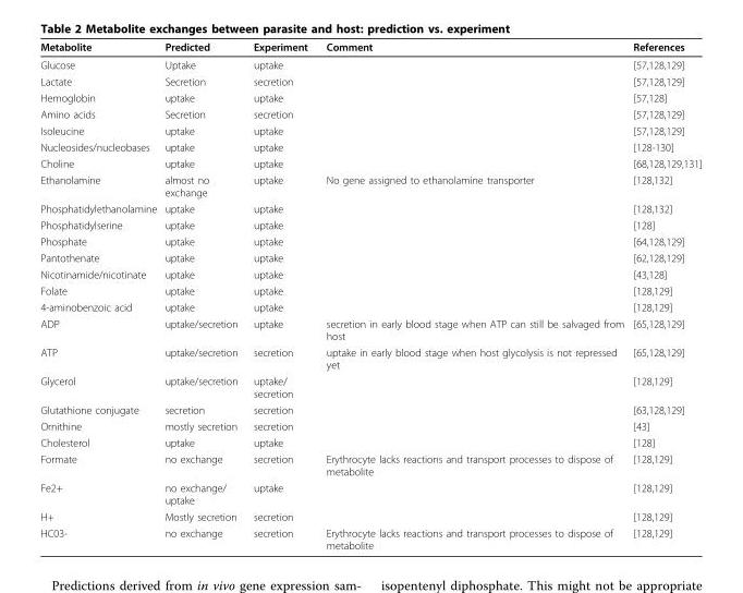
<table><thead><tr><td>Metabolite</td><td>Predicted</td><td>Experiment</td><td>Comment</td><td>References</td></tr></thead><tbody><tr><td>Glucose</td><td>Uptake</td><td>uptake</td><td></td><td>[57,128,129]</td></tr><tr><td>Lactate</td><td>Secretion</td><td>secretion</td><td></td><td>[57,128,129]</td></tr><tr><td>Hemoglobin</td><td>uptake</td><td>uptake</td><td></td><td>[57,128]</td></tr><tr><td>Amino acids</td><td>Secretion</td><td>secretion</td><td></td><td>[57,128,129]</td></tr><tr><td>Isoleucine</td><td>uptake</td><td>uptake</td><td></td><td>[57,128,129]</td></tr><tr><td>Nucleosides/nucleobases</td><td>uptake</td><td>uptake</td><td></td><td>[128-130]</td></tr><tr><td>Choline</td><td>uptake</td><td>uptake</td><td></td><td>[68,128,129,131]</td></tr><tr><td>Ethanolamine</td><td>almost no exchange</td><td>uptake</td><td>No gene assigned to ethanolamine transporter</td><td>[128,132]</td></tr><tr><td>Phosphatidylethanolamine</td><td>uptake</td><td>uptake</td><td></td><td>[128,132]</td></tr><tr><td>Phosphatidylserine</td><td>uptake</td><td>uptake</td><td></td><td>[128]</td></tr><tr><td>Phosphate</td><td>uptake</td><td>uptake</td><td></td><td>[64,128,129]</td></tr><tr><td>Pantothenate</td><td>uptake</td><td>uptake</td><td></td><td>[62,128,129]</td></tr><tr><td>Nicotinamide/nicotinate</td><td>uptake</td><td>uptake</td><td></td><td>[43,128]</td></tr><tr><td>Folate</td><td>uptake</td><td>uptake</td><td></td><td>[128,129]</td></tr><tr><td>4-aminobenzoic acid</td><td>uptake</td><td>uptake</td><td></td><td>[128,129]</td></tr><tr><td>ADP</td><td>uptake/secretion</td><td>uptake</td><td>secretion in early blood stage when ATP can still be salvaged from host</td><td>[65,128,129]</td></tr><tr><td>ATP</td><td>uptake/secretion</td><td>secretion</td><td>uptake in early blood stage when host glycolysis is not repressed yet</td><td>[65,128,129]</td></tr><tr><td>Glycerol</td><td>uptake/secretion</td><td>uptake/ secretion</td><td></td><td>[128,129]</td></tr><tr><td>Glutathione conjugate</td><td>secretion</td><td>secretion</td><td></td><td>[63,128,129]</td></tr><tr><td>Ornithine</td><td>mostly secretion</td><td>secretion</td><td></td><td>[43]</td></tr><tr><td>Cholesterol</td><td>uptake</td><td>uptake</td><td></td><td>[128]</td></tr><tr><td>Formate</td><td>no exchange</td><td>secretion</td><td>Erythrocyte lacks reactions and transport processes to dispose of metabolite</td><td>[128,129]</td></tr><tr><td>Fe2+</td><td>no exchange/ uptake</td><td>uptake</td><td></td><td>[128,129]</td></tr><tr><td>H+</td><td>Mostly secretion</td><td>secretion</td><td></td><td>[128,129]</td></tr><tr><td>HC03-</td><td>no exchange</td><td>secretion</td><td>Erythrocyte lacks reactions and transport processes to dispose of metabolite</td><td>[128,129]</td></tr></tbody></table>